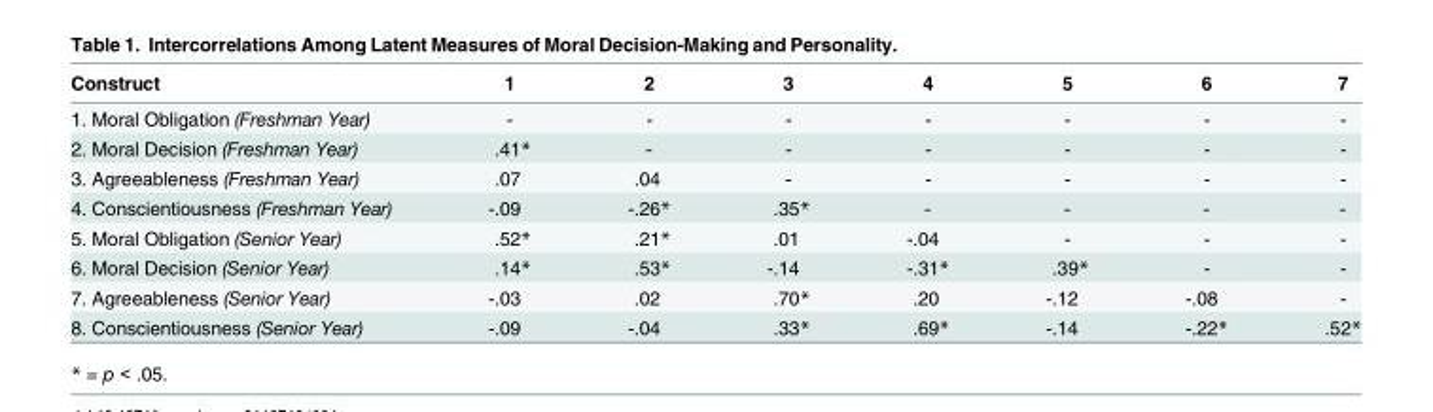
<table><thead><tr><td>Construct</td><td>1</td><td>2</td><td>3</td><td>4</td><td>5</td><td>6</td><td>7</td></tr></thead><tbody><tr><td>1. Moral Obligation (Freshman Year)</td><td>-</td><td>-</td><td>-</td><td>-</td><td>-</td><td>-</td><td>-</td></tr><tr><td>2. Moral Decision (Freshman Year)</td><td>.41*</td><td>-</td><td>-</td><td>-</td><td>-</td><td>-</td><td>-</td></tr><tr><td>3. Agreeableness (Freshman Year)</td><td>.07</td><td>.04</td><td>-</td><td>-</td><td>-</td><td>-</td><td>-</td></tr><tr><td>4. Conscientiousness (Freshman Year)</td><td>-.09</td><td>-.26*</td><td>.35*</td><td>-</td><td>-</td><td>-</td><td>-</td></tr><tr><td>5. Moral Obligation (Senior Year)</td><td>.52*</td><td>.21*</td><td>.01</td><td>-.04</td><td>-</td><td>-</td><td>-</td></tr><tr><td>6. Moral Decision (Senior Year)</td><td>.14*</td><td>.53*</td><td>-.14</td><td>-.31*</td><td>.39*</td><td>-</td><td>-</td></tr><tr><td>7. Agreeableness (Senior Year)</td><td>-.03</td><td>.02</td><td>.70*</td><td>.20</td><td>-.12</td><td>-.08</td><td>-</td></tr><tr><td>8. Conscientiousness (Senior Year)</td><td>-.09</td><td>-.04</td><td>.33*</td><td>.69*</td><td>-.14</td><td>-.22*</td><td>.52*</td></tr></tbody></table>